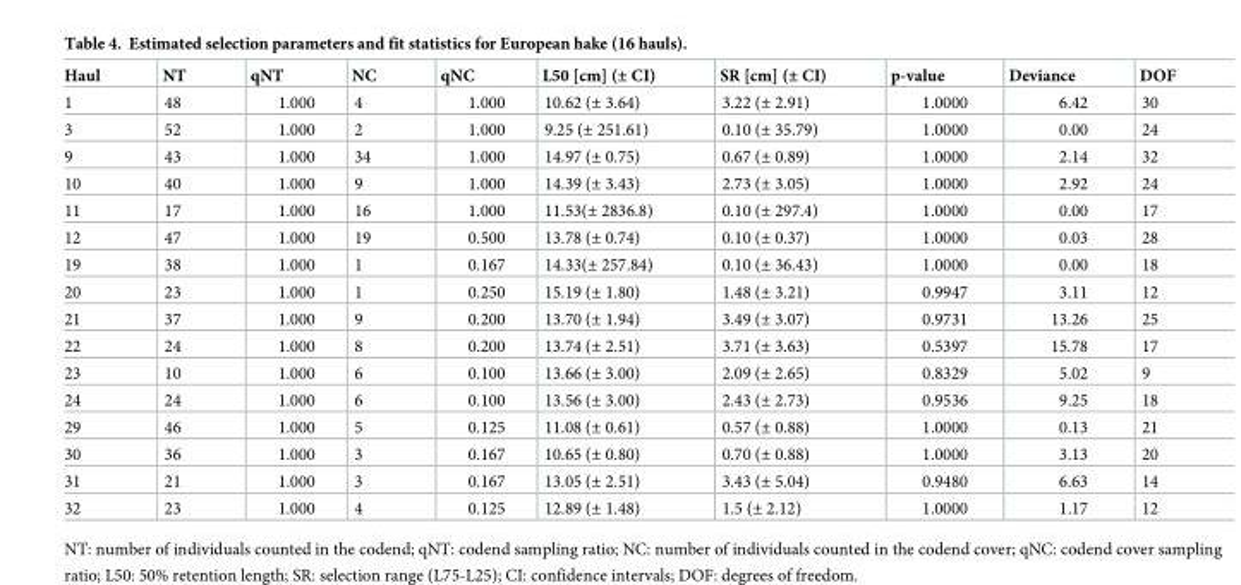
<table><thead><tr><td>Haul</td><td>NT</td><td>qNT</td><td>NC</td><td>qNC</td><td>L50 [cm] (± CI)</td><td>SR [cm] (± CI)</td><td>p-value</td><td>Deviance</td><td>DOF</td></tr></thead><tbody><tr><td>1</td><td>48</td><td>1.000</td><td>4</td><td>1.000</td><td>10.62 (± 3.64)</td><td>3.22 (± 2.91)</td><td>1.0000</td><td>6.42</td><td>30</td></tr><tr><td>3</td><td>52</td><td>1.000</td><td>2</td><td>1.000</td><td>9.25 (± 251.61)</td><td>0.10 (± 35.79)</td><td>1.0000</td><td>0.00</td><td>24</td></tr><tr><td>9</td><td>43</td><td>1.000</td><td>34</td><td>1.000</td><td>14.97 (± 0.75)</td><td>0.67 (± 0.89)</td><td>1.0000</td><td>2.14</td><td>32</td></tr><tr><td>10</td><td>40</td><td>1.000</td><td>9</td><td>1.000</td><td>14.39 (± 3.43)</td><td>2.73 (± 3.05)</td><td>1.0000</td><td>2.92</td><td>24</td></tr><tr><td>11</td><td>17</td><td>1.000</td><td>16</td><td>1.000</td><td>11.53(± 2836.8)</td><td>0.10 (± 297.4)</td><td>1.0000</td><td>0.00</td><td>17</td></tr><tr><td>12</td><td>47</td><td>1.000</td><td>19</td><td>0.500</td><td>13.78 (± 0.74)</td><td>0.10 (± 0.37)</td><td>1.0000</td><td>0.03</td><td>28</td></tr><tr><td>19</td><td>38</td><td>1.000</td><td>1</td><td>0.167</td><td>14.33(± 257.84)</td><td>0.10 (± 36.43)</td><td>1.0000</td><td>0.00</td><td>18</td></tr><tr><td>20</td><td>23</td><td>1.000</td><td>1</td><td>0.250</td><td>15.19 (± 1.80)</td><td>1.48 (± 3.21)</td><td>0.9947</td><td>3.11</td><td>12</td></tr><tr><td>21</td><td>37</td><td>1.000</td><td>9</td><td>0.200</td><td>13.70 (± 1.94)</td><td>3.49 (± 3.07)</td><td>0.9731</td><td>13.26</td><td>25</td></tr><tr><td>22</td><td>24</td><td>1.000</td><td>8</td><td>0.200</td><td>13.74 (± 2.51)</td><td>3.71 (± 3.63)</td><td>0.5397</td><td>15.78</td><td>17</td></tr><tr><td>23</td><td>10</td><td>1.000</td><td>6</td><td>0.100</td><td>13.66 (± 3.00)</td><td>2.09 (± 2.65)</td><td>0.8329</td><td>5.02</td><td>9</td></tr><tr><td>24</td><td>24</td><td>1.000</td><td>6</td><td>0.100</td><td>13.56 (± 3.00)</td><td>2.43 (± 2.73)</td><td>0.9536</td><td>9.25</td><td>18</td></tr><tr><td>29</td><td>46</td><td>1.000</td><td>5</td><td>0.125</td><td>11.08 (± 0.61)</td><td>0.57 (± 0.88)</td><td>1.0000</td><td>0.13</td><td>21</td></tr><tr><td>30</td><td>36</td><td>1.000</td><td>3</td><td>0.167</td><td>10.65 (± 0.80)</td><td>0.70 (± 0.88)</td><td>1.0000</td><td>3.13</td><td>20</td></tr><tr><td>31</td><td>21</td><td>1.000</td><td>3</td><td>0.167</td><td>13.05 (± 2.51)</td><td>3.43 (± 5.04)</td><td>0.9480</td><td>6.63</td><td>14</td></tr><tr><td>32</td><td>23</td><td>1.000</td><td>4</td><td>0.125</td><td>12.89 (± 1.48)</td><td>1.5 (± 2.12)</td><td>1.0000</td><td>1.17</td><td>12</td></tr></tbody></table>